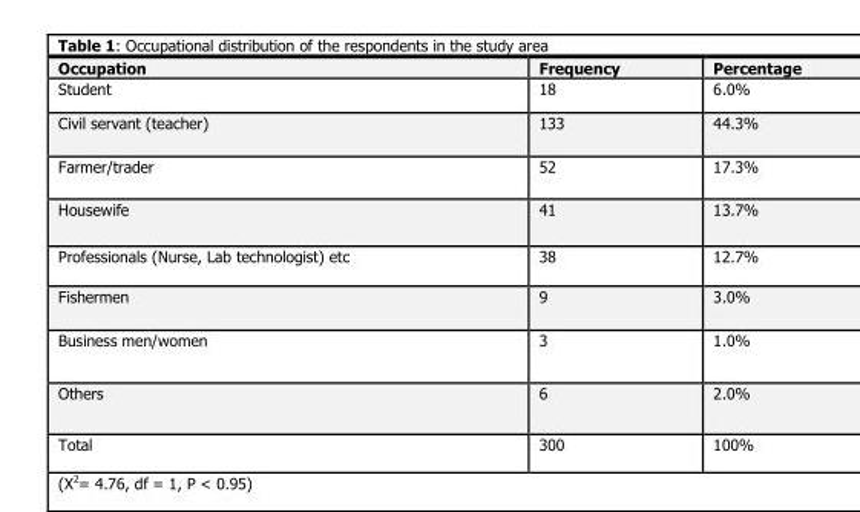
<table><thead><tr><td>Occupation</td><td>Frequency</td><td>Percentage</td></tr></thead><tbody><tr><td>Student</td><td>18</td><td>6.0%</td></tr><tr><td>Civil servant (teacher)</td><td>133</td><td>44.3%</td></tr><tr><td>Farmer/trader</td><td>52</td><td>17.3%</td></tr><tr><td>Housewife</td><td>41</td><td>13.7%</td></tr><tr><td>Professionals (Nurse, Lab technologist) etc</td><td>38</td><td>12.7%</td></tr><tr><td>Fishermen</td><td>9</td><td>3.0%</td></tr><tr><td>Business men/women</td><td>3</td><td>1.0%</td></tr><tr><td>Others</td><td>6</td><td>2.0%</td></tr><tr><td>Total</td><td>300</td><td>100%</td></tr></tbody></table>